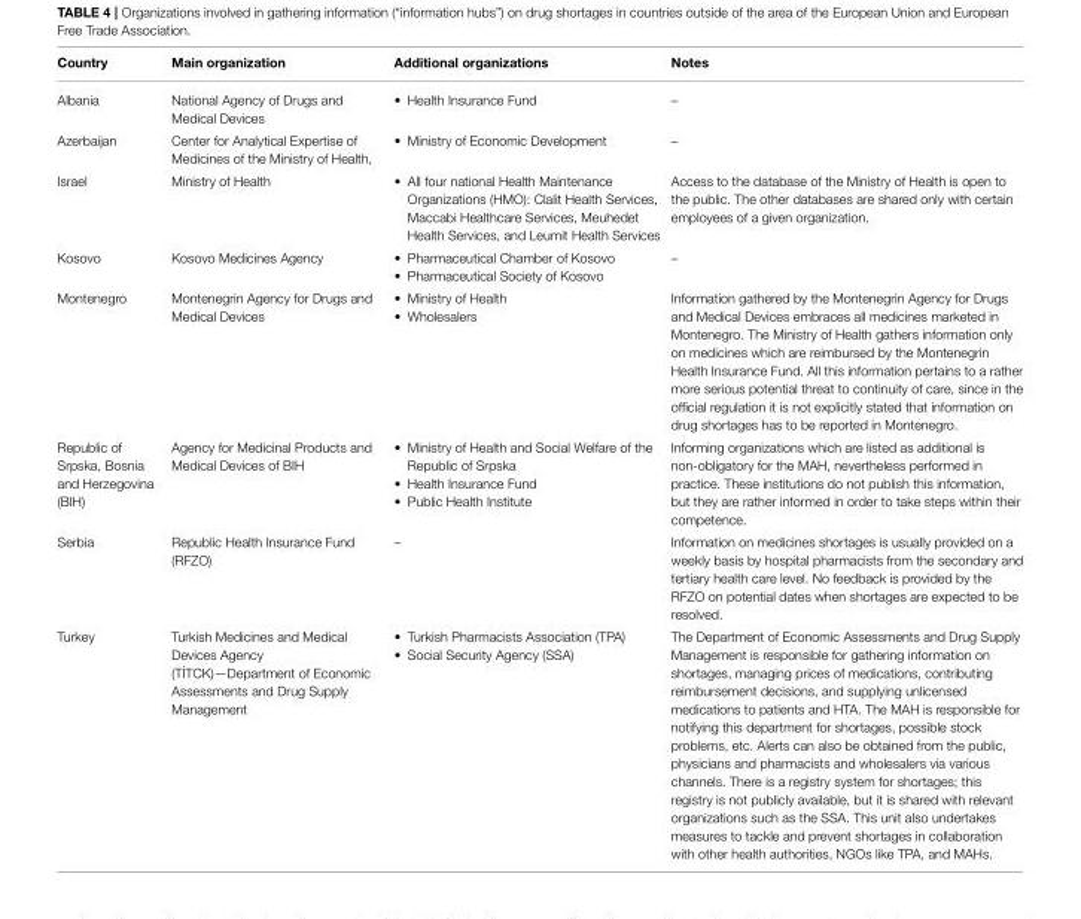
<table><thead><tr><td>Country</td><td>Main organization</td><td>Additional organizations</td><td>Notes</td></tr></thead><tbody><tr><td>Albania</td><td>National Agency of Drugs and Medical Devices</td><td>• Health Insurance Fund</td><td>–</td></tr><tr><td>Azerbaijan</td><td>Center for Analytical Expertise of Medicines of the Ministry of Health,</td><td>• Ministry of Economic Development</td><td>–</td></tr><tr><td>Israel</td><td>Ministry of Health</td><td>• All four national Health Maintenance Organizations (HMO): Clalit Health Services, Maccabi Healthcare Services, Meuhedet Health Services, and Leumit Health Services</td><td>Access to the database of the Ministry of Health is open to the public. The other databases are shared only with certain employees of a given organization.</td></tr><tr><td>Kosovo</td><td>Kosovo Medicines Agency</td><td>• Pharmaceutical Chamber of Kosovo • Pharmaceutical Society of Kosovo</td><td>–</td></tr><tr><td>Montenegro</td><td>Montenegrin Agency for Drugs and Medical Devices</td><td>• Ministry of Health • Wholesalers</td><td>Information gathered by the Montenegrin Agency for Drugs and Medical Devices embraces all medicines marketed in Montenegro. The Ministry of Health gathers information only on medicines which are reimbursed by the Montenegrin Health Insurance Fund. All this information pertains to a rather more serious potential threat to continuity of care, since in the official regulation it is not explicitly stated that information on drug shortages has to be reported in Montenegro.</td></tr><tr><td>Republic of Srpska, Bosnia and Herzegovina (BIH)</td><td>Agency for Medicinal Products and Medical Devices of BIH</td><td>• Ministry of Health and Social Welfare of the Republic of Srpska • Health Insurance Fund • Public Health Institute</td><td>Informing organizations which are listed as additional is non-obligatory for the MAH, nevertheless performed in practice. These institutions do not publish this information, but they are rather informed in order to take steps within their competence.</td></tr><tr><td>Serbia</td><td>Republic Health Insurance Fund (RFZO)</td><td>–</td><td>Information on medicines shortages is usually provided on a weekly basis by hospital pharmacists from the secondary and tertiary health care level. No feedback is provided by the RFZO on potential dates when shortages are expected to be resolved.</td></tr><tr><td>Turkey</td><td>Turkish Medicines and Medical Devices Agency (T˙ITCK)—Department of Economic Assessments and Drug Supply Management</td><td>• Turkish Pharmacists Association (TPA) • Social Security Agency (SSA)</td><td>The Department of Economic Assessments and Drug Supply Management is responsible for gathering information on shortages, managing prices of medications, contributing reimbursement decisions, and supplying unlicensed medications to patients and HTA. The MAH is responsible for notifying this department for shortages, possible stock problems, etc. Alerts can also be obtained from the public, physicians and pharmacists and wholesalers via various channels. There is a registry system for shortages; this registry is not publicly available, but it is shared with relevant organizations such as the SSA. This unit also undertakes measures to tackle and prevent shortages in collaboration with other health authorities, NGOs like TPA, and MAHs.</td></tr></tbody></table>